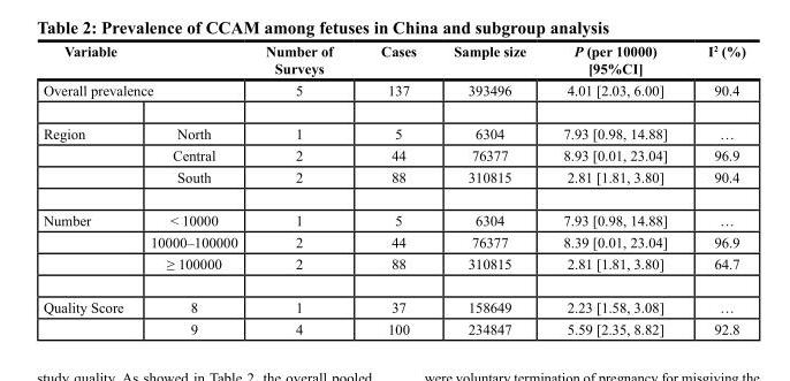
<table><thead><tr><td>Variable</td><td></td><td>Number of Surveys</td><td>Cases</td><td>Sample size</td><td>P (per 10000) [95%CI]</td><td>I<sup>2</sup> (%)</td></tr></thead><tbody><tr><td colspan="2">Overall prevalence</td><td>5</td><td>137</td><td>393496</td><td>4.01 [2.03, 6.00]</td><td>90.4</td></tr><tr><td rowspan="3">Region</td><td>North</td><td>1</td><td>5</td><td>6304</td><td>7.93 [0.98, 14.88]</td><td>…</td></tr><tr><td>Central</td><td>2</td><td>44</td><td>76377</td><td>8.93 [0.01, 23.04]</td><td>96.9</td></tr><tr><td>South</td><td>2</td><td>88</td><td>310815</td><td>2.81 [1.81, 3.80]</td><td>90.4</td></tr><tr><td rowspan="3">Number</td><td>&lt; 10000</td><td>1</td><td>5</td><td>6304</td><td>7.93 [0.98, 14.88]</td><td>…</td></tr><tr><td>10000–100000</td><td>2</td><td>44</td><td>76377</td><td>8.39 [0.01, 23.04]</td><td>96.9</td></tr><tr><td>≥ 100000</td><td>2</td><td>88</td><td>310815</td><td>2.81 [1.81, 3.80]</td><td>64.7</td></tr><tr><td rowspan="2">Quality Score</td><td>8</td><td>1</td><td>37</td><td>158649</td><td>2.23 [1.58, 3.08]</td><td>…</td></tr><tr><td>9</td><td>4</td><td>100</td><td>234847</td><td>5.59 [2.35, 8.82]</td><td>92.8</td></tr></tbody></table>